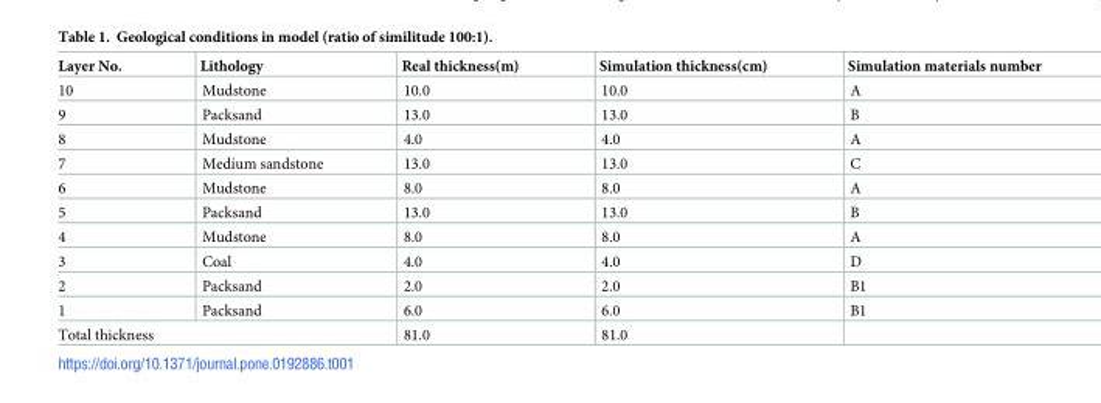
<table><thead><tr><td>Layer No.</td><td>Lithology</td><td>Real thickness(m)</td><td>Simulation thickness(cm)</td><td>Simulation materials number</td></tr></thead><tbody><tr><td>10</td><td>Mudstone</td><td>10.0</td><td>10.0</td><td>A</td></tr><tr><td>9</td><td>Packsand</td><td>13.0</td><td>13.0</td><td>B</td></tr><tr><td>8</td><td>Mudstone</td><td>4.0</td><td>4.0</td><td>A</td></tr><tr><td>7</td><td>Medium sandstone</td><td>13.0</td><td>13.0</td><td>C</td></tr><tr><td>6</td><td>Mudstone</td><td>8.0</td><td>8.0</td><td>A</td></tr><tr><td>5</td><td>Packsand</td><td>13.0</td><td>13.0</td><td>B</td></tr><tr><td>4</td><td>Mudstone</td><td>8.0</td><td>8.0</td><td>A</td></tr><tr><td>3</td><td>Coal</td><td>4.0</td><td>4.0</td><td>D</td></tr><tr><td>2</td><td>Packsand</td><td>2.0</td><td>2.0</td><td>B1</td></tr><tr><td>1</td><td>Packsand</td><td>6.0</td><td>6.0</td><td>B1</td></tr><tr><td colspan="2">Total thickness</td><td>81.0</td><td>81.0</td><td></td></tr></tbody></table>